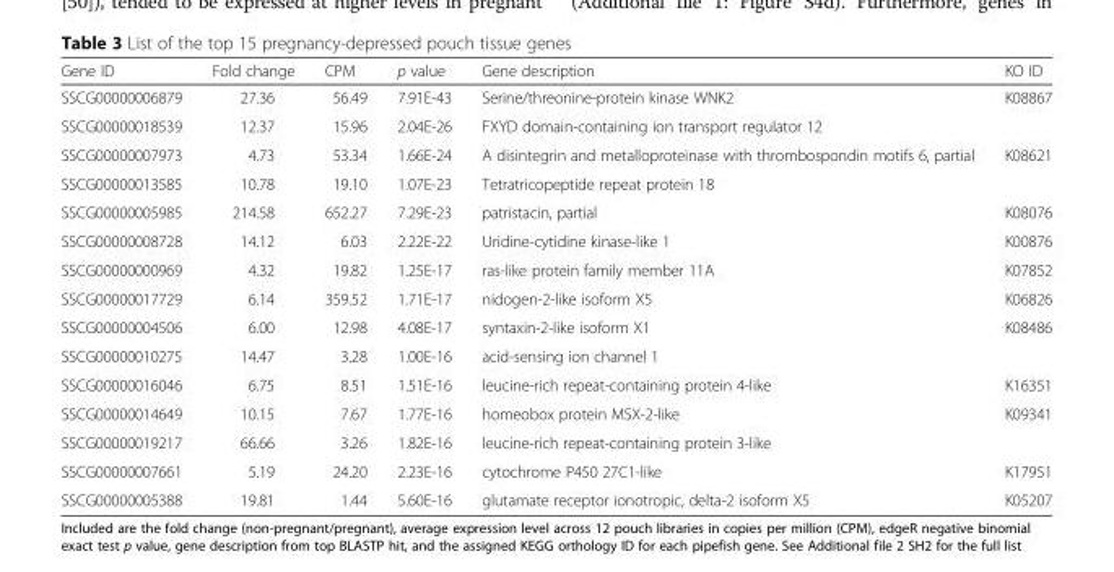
<table><thead><tr><td>Gene ID</td><td>Fold change</td><td>CPM</td><td>p value</td><td>Gene description</td><td>KO ID</td></tr></thead><tbody><tr><td>SSCG00000006879</td><td>27.36</td><td>56.49</td><td>7.91E-43</td><td>Serine/threonine-protein kinase WNK2</td><td>K08867</td></tr><tr><td>SSCG00000018539</td><td>12.37</td><td>15.96</td><td>2.04E-26</td><td>FXYD domain-containing ion transport regulator 12</td><td></td></tr><tr><td>SSCG00000007973</td><td>4.73</td><td>53.34</td><td>1.66E-24</td><td>A disintegrin and metalloproteinase with thrombospondin motifs 6, partial</td><td>K08621</td></tr><tr><td>SSCG00000013585</td><td>10.78</td><td>19.10</td><td>1.07E-23</td><td>Tetratricopeptide repeat protein 18</td><td></td></tr><tr><td>SSCG00000005985</td><td>214.58</td><td>652.27</td><td>7.29E-23</td><td>patristacin, partial</td><td>K08076</td></tr><tr><td>SSCG00000008728</td><td>14.12</td><td>6.03</td><td>2.22E-22</td><td>Uridine-cytidine kinase-like 1</td><td>K00876</td></tr><tr><td>SSCG00000000969</td><td>4.32</td><td>19.82</td><td>1.25E-17</td><td>ras-like protein family member 11A</td><td>K07852</td></tr><tr><td>SSCG00000017729</td><td>6.14</td><td>359.52</td><td>1.71E-17</td><td>nidogen-2-like isoform X5</td><td>K06826</td></tr><tr><td>SSCG00000004506</td><td>6.00</td><td>12.98</td><td>4.08E-17</td><td>syntaxin-2-like isoform X1</td><td>K08486</td></tr><tr><td>SSCG00000010275</td><td>14.47</td><td>3.28</td><td>1.00E-16</td><td>acid-sensing ion channel 1</td><td></td></tr><tr><td>SSCG00000016046</td><td>6.75</td><td>8.51</td><td>1.51E-16</td><td>leucine-rich repeat-containing protein 4-like</td><td>K16351</td></tr><tr><td>SSCG00000014649</td><td>10.15</td><td>7.67</td><td>1.77E-16</td><td>homeobox protein MSX-2-like</td><td>K09341</td></tr><tr><td>SSCG00000019217</td><td>66.66</td><td>3.26</td><td>1.82E-16</td><td>leucine-rich repeat-containing protein 3-like</td><td></td></tr><tr><td>SSCG00000007661</td><td>5.19</td><td>24.20</td><td>2.23E-16</td><td>cytochrome P450 27C1-like</td><td>K17951</td></tr><tr><td>SSCG00000005388</td><td>19.81</td><td>1.44</td><td>5.60E-16</td><td>glutamate receptor ionotropic, delta-2 isoform X5</td><td>K05207</td></tr></tbody></table>